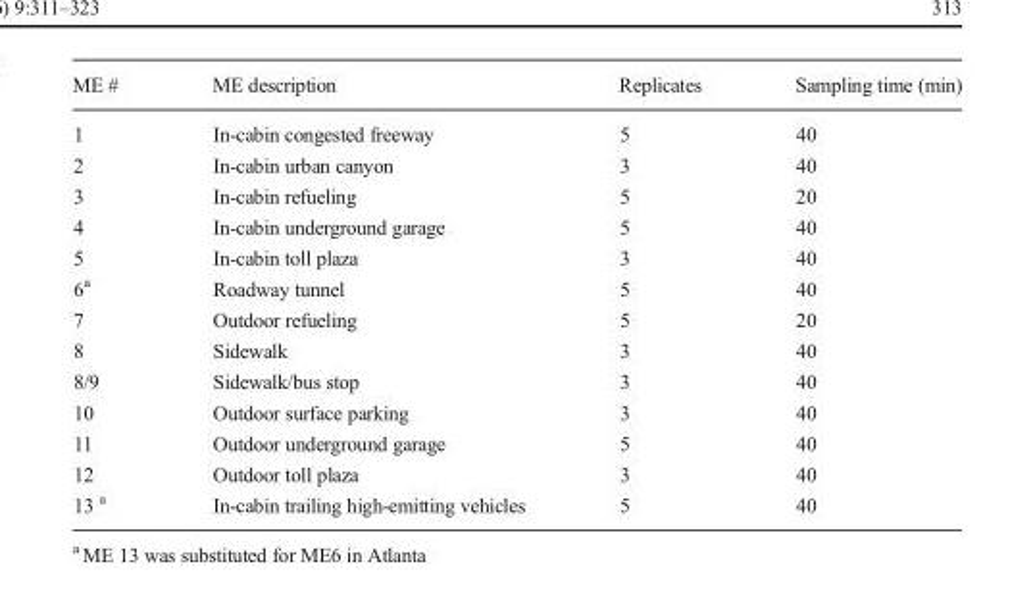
<table><thead><tr><td>ME #</td><td>ME description</td><td>Replicates</td><td>Sampling time (min)</td></tr></thead><tbody><tr><td>1</td><td>In-cabin congested freeway</td><td>5</td><td>40</td></tr><tr><td>2</td><td>In-cabin urban canyon</td><td>3</td><td>40</td></tr><tr><td>3</td><td>In-cabin refueling</td><td>5</td><td>20</td></tr><tr><td>4</td><td>In-cabin underground garage</td><td>5</td><td>40</td></tr><tr><td>5</td><td>In-cabin toll plaza</td><td>3</td><td>40</td></tr><tr><td>6<sup>a</sup></td><td>Roadway tunnel</td><td>5</td><td>40</td></tr><tr><td>7</td><td>Outdoor refueling</td><td>5</td><td>20</td></tr><tr><td>8</td><td>Sidewalk</td><td>3</td><td>40</td></tr><tr><td>8/9</td><td>Sidewalk/bus stop</td><td>3</td><td>40</td></tr><tr><td>10</td><td>Outdoor surface parking</td><td>3</td><td>40</td></tr><tr><td>11</td><td>Outdoor underground garage</td><td>5</td><td>40</td></tr><tr><td>12</td><td>Outdoor toll plaza</td><td>3</td><td>40</td></tr><tr><td>13 <sup>a</sup></td><td>In-cabin trailing high-emitting vehicles</td><td>5</td><td>40</td></tr></tbody></table>